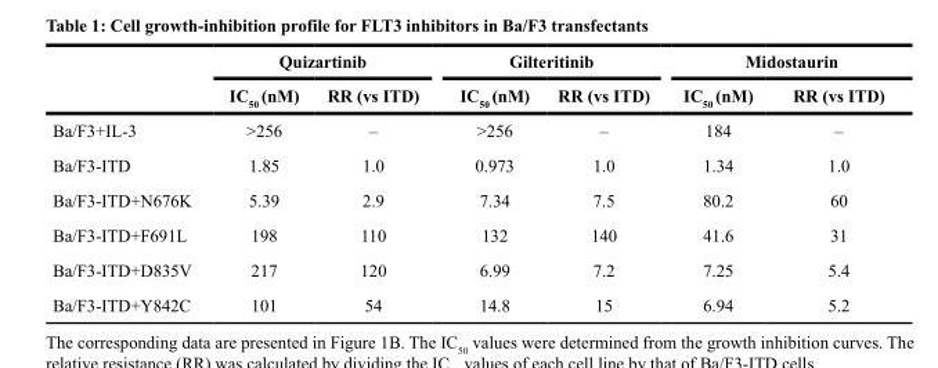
<table><thead><tr><td rowspan="2"></td><td colspan="2">Quizartinib</td><td colspan="2">Gilteritinib</td><td colspan="2">Midostaurin</td></tr><tr><td>IC<sub>50</sub> (nM)</td><td>RR (vs ITD)</td><td>IC<sub>50</sub> (nM)</td><td>RR (vs ITD)</td><td>IC<sub>50</sub> (nM)</td><td>RR (vs ITD)</td></tr></thead><tbody><tr><td>Ba/F3+IL-3</td><td>&gt;256</td><td>–</td><td>&gt;256</td><td>–</td><td>184</td><td>–</td></tr><tr><td>Ba/F3-ITD</td><td>1.85</td><td>1.0</td><td>0.973</td><td>1.0</td><td>1.34</td><td>1.0</td></tr><tr><td>Ba/F3-ITD+N676K</td><td>5.39</td><td>2.9</td><td>7.34</td><td>7.5</td><td>80.2</td><td>60</td></tr><tr><td>Ba/F3-ITD+F691L</td><td>198</td><td>110</td><td>132</td><td>140</td><td>41.6</td><td>31</td></tr><tr><td>Ba/F3-ITD+D835V</td><td>217</td><td>120</td><td>6.99</td><td>7.2</td><td>7.25</td><td>5.4</td></tr><tr><td>Ba/F3-ITD+Y842C</td><td>101</td><td>54</td><td>14.8</td><td>15</td><td>6.94</td><td>5.2</td></tr></tbody></table>